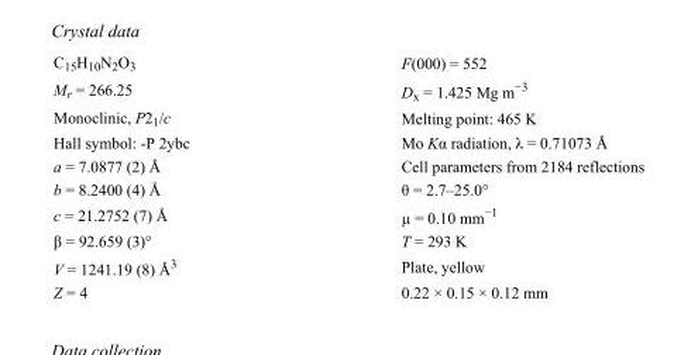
<table><tbody><tr><td>C<sub>15</sub>H<sub>10</sub>N<sub>2</sub>O<sub>3</sub></td><td>F(000) = 552</td></tr><tr><td>M<sub>r</sub> = 266.25</td><td>D<sub>x</sub> = 1.425 Mg m<sup>−3</sup></td></tr><tr><td>Monoclinic, P2<sub>1</sub>/c</td><td>Melting point: 465 K</td></tr><tr><td>Hall symbol: -P 2ybc</td><td>Mo Kα radiation, λ = 0.71073 Å</td></tr><tr><td>a = 7.0877 (2) Å</td><td>Cell parameters from 2184 reflections</td></tr><tr><td>b = 8.2400 (4) Å</td><td>θ = 2.7–25.0°</td></tr><tr><td>c = 21.2752 (7) Å</td><td>µ = 0.10 mm<sup>−1</sup></td></tr><tr><td>β = 92.659 (3)°</td><td>T = 293 K</td></tr><tr><td>V = 1241.19 (8) Å<sup>3</sup></td><td>Plate, yellow</td></tr><tr><td>Z = 4</td><td>0.22 × 0.15 × 0.12 mm</td></tr></tbody></table>